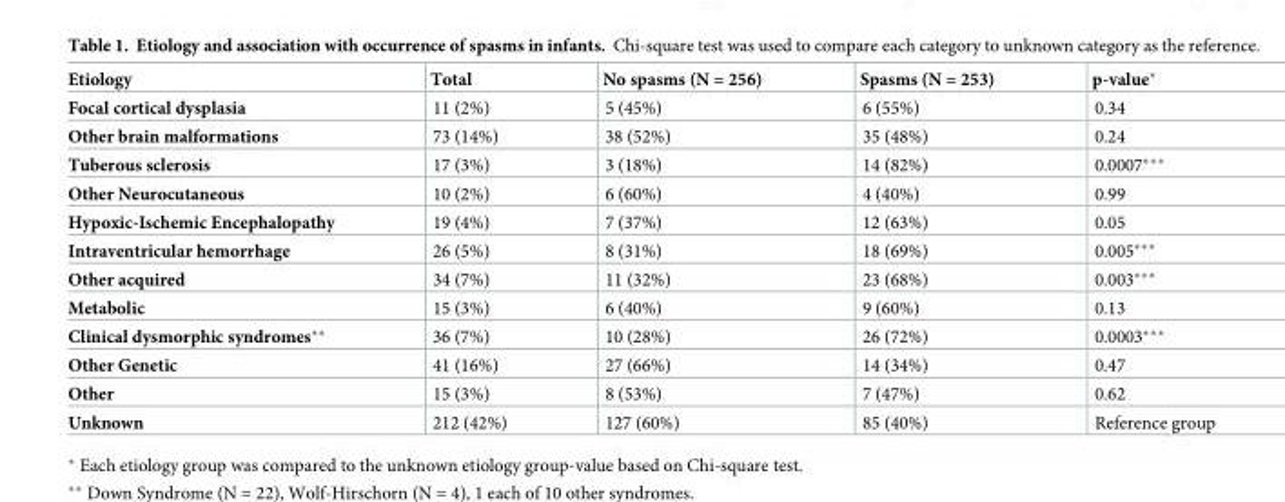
<table><thead><tr><td>Etiology</td><td>Total</td><td>No spasms (N = 256)</td><td>Spasms (N = 253)</td><td>p-value*</td></tr></thead><tbody><tr><td>Focal cortical dysplasia</td><td>11 (2%)</td><td>5 (45%)</td><td>6 (55%)</td><td>0.34</td></tr><tr><td>Other brain malformations</td><td>73 (14%)</td><td>38 (52%)</td><td>35 (48%)</td><td>0.24</td></tr><tr><td>Tuberous sclerosis</td><td>17 (3%)</td><td>3 (18%)</td><td>14 (82%)</td><td>0.0007***</td></tr><tr><td>Other Neurocutaneous</td><td>10 (2%)</td><td>6 (60%)</td><td>4 (40%)</td><td>0.99</td></tr><tr><td>Hypoxic-Ischemic Encephalopathy</td><td>19 (4%)</td><td>7 (37%)</td><td>12 (63%)</td><td>0.05</td></tr><tr><td>Intraventricular hemorrhage</td><td>26 (5%)</td><td>8 (31%)</td><td>18 (69%)</td><td>0.005***</td></tr><tr><td>Other acquired</td><td>34 (7%)</td><td>11 (32%)</td><td>23 (68%)</td><td>0.003***</td></tr><tr><td>Metabolic</td><td>15 (3%)</td><td>6 (40%)</td><td>9 (60%)</td><td>0.13</td></tr><tr><td>Clinical dysmorphic syndromes**</td><td>36 (7%)</td><td>10 (28%)</td><td>26 (72%)</td><td>0.0003***</td></tr><tr><td>Other Genetic</td><td>41 (16%)</td><td>27 (66%)</td><td>14 (34%)</td><td>0.47</td></tr><tr><td>Other</td><td>15 (3%)</td><td>8 (53%)</td><td>7 (47%)</td><td>0.62</td></tr><tr><td>Unknown</td><td>212 (42%)</td><td>127 (60%)</td><td>85 (40%)</td><td>Reference group</td></tr></tbody></table>